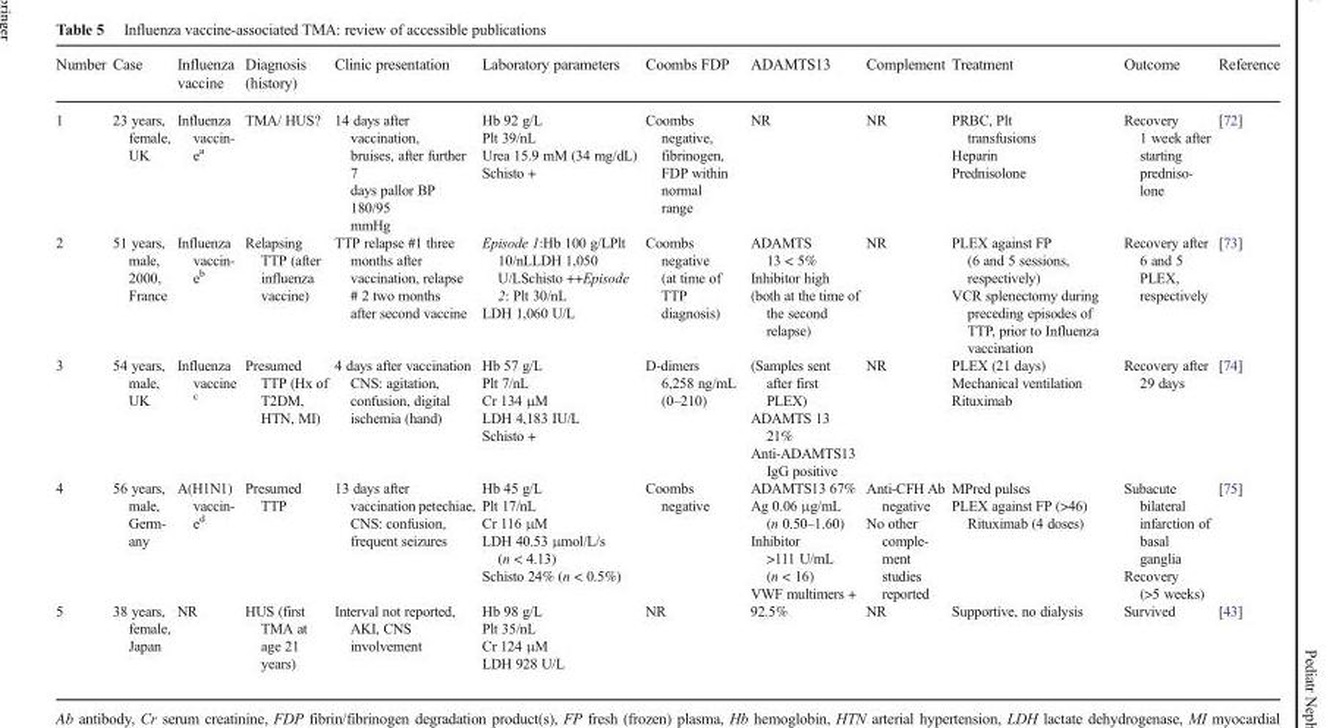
<table><thead><tr><td>Number</td><td>Case</td><td>Influenza vaccine</td><td>Diagnosis (history)</td><td>Clinic presentation</td><td>Laboratory parameters</td><td>Coombs FDP</td><td>ADAMTS13</td><td>Complement</td><td>Treatment</td><td>Outcome</td><td>Reference</td></tr></thead><tbody><tr><td>1</td><td>23 years, female, UK</td><td>Influenza vaccin- ea</td><td>TMA/ HUS?</td><td>14 days after vaccination, bruises, after further 7 days pallor BP 180/95 mmHg</td><td>Hb 92 g/L Plt 39/nL Urea 15.9 mM (34 mg/dL) Schisto +</td><td>Coombs negative, fibrinogen, FDP within normal range</td><td>NR</td><td>NR</td><td>PRBC, Plt transfusions Heparin Prednisolone</td><td>Recovery 1 week after starting predniso- lone</td><td>[72]</td></tr><tr><td>2</td><td>51 years, male, 2000, France</td><td>Influenza vaccin- eb</td><td>Relapsing TTP (after influenza vaccine)</td><td>TTP relapse #1 three months after vaccination, relapse # 2 two months after second vaccine</td><td>Episode 1:Hb 100 g/LPlt 10/nLLDH 1,050 U/LSchisto ++Episode 2: Plt 30/nL LDH 1,060 U/L</td><td>Coombs negative (at time of TTP diagnosis)</td><td>ADAMTS 13 &lt; 5% Inhibitor high (both at the time of the second relapse)</td><td>NR</td><td>PLEX against FP (6 and 5 sessions, respectively) VCR splenectomy during preceding episodes of TTP, prior to Influenza vaccination</td><td>Recovery after 6 and 5 PLEX, respectively</td><td>[73]</td></tr><tr><td>3</td><td>54 years, male, UK</td><td>Influenza vaccine <sup>c</sup></td><td>Presumed TTP (Hx of T2DM, HTN, MI)</td><td>4 days after vaccination CNS: agitation, confusion, digital ischemia (hand)</td><td>Hb 57 g/L Plt 7/nL Cr 134 μM LDH 4,183 IU/L Schisto +</td><td>D-dimers 6,258 ng/mL (0–210)</td><td>(Samples sent after first PLEX) ADAMTS 13 21% Anti-ADAMTS13 IgG positive</td><td>NR</td><td>PLEX (21 days) Mechanical ventilation Rituximab</td><td>Recovery after 29 days</td><td>[74]</td></tr><tr><td>4</td><td>56 years, male, Germ- any</td><td>A(H1N1) vaccin- ed</td><td>Presumed TTP</td><td>13 days after vaccination petechiae, CNS: confusion, frequent seizures</td><td>Hb 45 g/L Plt 17/nL Cr 116 μM LDH 40.53 μmol/L/s (n &lt; 4.13) Schisto 24% (n &lt; 0.5%)</td><td>Coombs negative</td><td>ADAMTS13 67% Ag 0.06 μg/mL (n 0.50–1.60) Inhibitor &gt;111 U/mL (n &lt; 16) VWF multimers +</td><td>Anti-CFH Ab negative No other comple- ment studies reported</td><td>MPred pulses PLEX against FP (&gt;46) Rituximab (4 doses)</td><td>Subacute bilateral infarction of basal ganglia Recovery (&gt;5 weeks)</td><td>[75]</td></tr><tr><td>5</td><td>38 years, female, Japan</td><td>NR</td><td>HUS (first TMA at age 21 years)</td><td>Interval not reported, AKI, CNS involvement</td><td>Hb 98 g/L Plt 35/nL Cr 124 μM LDH 928 U/L</td><td>NR</td><td>92.5%</td><td>NR</td><td>Supportive, no dialysis</td><td>Survived</td><td>[43]</td></tr></tbody></table>